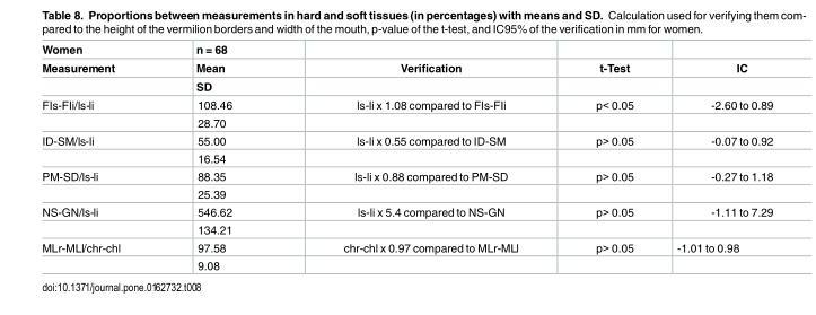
<table><thead><tr><td rowspan="3">Women Measurement</td><td rowspan="3">n = 68 Mean SD</td><td rowspan="3">Verification</td><td rowspan="3">t-Test</td><td rowspan="3">IC</td></tr><tr></tr><tr></tr></thead><tbody><tr><td rowspan="2">FIs-FIi/ls-li</td><td>108.46</td><td>ls-li x 1.08 compared to FIs-FIi</td><td>p&lt; 0.05</td><td>-2.60 to 0.89</td></tr><tr><td>28.70</td><td></td><td></td><td></td></tr><tr><td rowspan="2">ID-SM/ls-li</td><td>55.00</td><td>ls-li x 0.55 compared to ID-SM</td><td>p&gt; 0.05</td><td>-0.07 to 0.92</td></tr><tr><td>16.54</td><td></td><td></td><td></td></tr><tr><td rowspan="2">PM-SD/ls-li</td><td>88.35</td><td>ls-li x 0.88 compared to PM-SD</td><td>p&gt; 0.05</td><td>-0.27 to 1.18</td></tr><tr><td>25.39</td><td></td><td></td><td></td></tr><tr><td rowspan="2">NS-GN/ls-li</td><td>546.62</td><td>ls-li x 5.4 compared to NS-GN</td><td>p&gt; 0.05</td><td>-1.11 to 7.29</td></tr><tr><td>134.21</td><td></td><td></td><td></td></tr><tr><td rowspan="2">MLr-MLl/chr-chl</td><td>97.58</td><td>chr-chl x 0.97 compared to MLr-MLl</td><td>p&gt; 0.05</td><td>-1.01 to 0.98</td></tr><tr><td>9.08</td><td></td><td></td><td></td></tr></tbody></table>